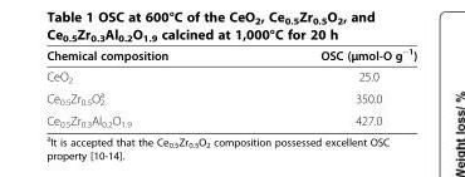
<table><thead><tr><td>Chemical composition</td><td>OSC (μmol-O g<sup>−1</sup>)</td></tr></thead><tbody><tr><td>CeO<sub>2</sub></td><td>25.0</td></tr><tr><td>Ce<sub>0.5</sub>Zr<sub>0.5</sub>O<sub>2</sub> <sup>a</sup></td><td>350.0</td></tr><tr><td>Ce<sub>0.5</sub>Zr<sub>0.3</sub>Al<sub>0.2</sub>O<sub>1.9</sub></td><td>427.0</td></tr></tbody></table>